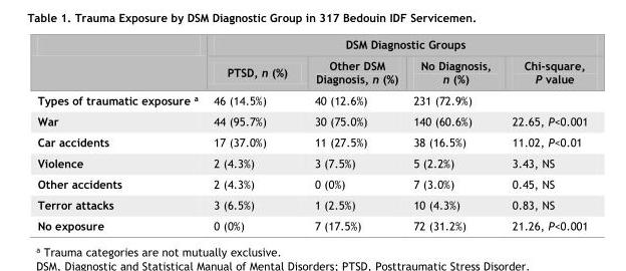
<table><thead><tr><td rowspan="2"></td><td colspan="4">DSM Diagnostic Groups</td></tr><tr><td>PTSD, n (%)</td><td>Other DSM Diagnosis, n (%)</td><td>No Diagnosis, n (%)</td><td>Chi-square, P value</td></tr></thead><tbody><tr><td>Types of traumatic exposure <sup>a</sup></td><td>46 (14.5%)</td><td>40 (12.6%)</td><td>231 (72.9%)</td><td></td></tr><tr><td>War</td><td>44 (95.7%)</td><td>30 (75.0%)</td><td>140 (60.6%)</td><td>22.65, P&lt;0.001</td></tr><tr><td>Car accidents</td><td>17 (37.0%)</td><td>11 (27.5%)</td><td>38 (16.5%)</td><td>11.02, P&lt;0.01</td></tr><tr><td>Violence</td><td>2 (4.3%)</td><td>3 (7.5%)</td><td>5 (2.2%)</td><td>3.43, NS</td></tr><tr><td>Other accidents</td><td>2 (4.3%)</td><td>0 (0%)</td><td>7 (3.0%)</td><td>0.45, NS</td></tr><tr><td>Terror attacks</td><td>3 (6.5%)</td><td>1 (2.5%)</td><td>10 (4.3%)</td><td>0.83, NS</td></tr><tr><td>No exposure</td><td>0 (0%)</td><td>7 (17.5%)</td><td>72 (31.2%)</td><td>21.26, P&lt;0.001</td></tr></tbody></table>